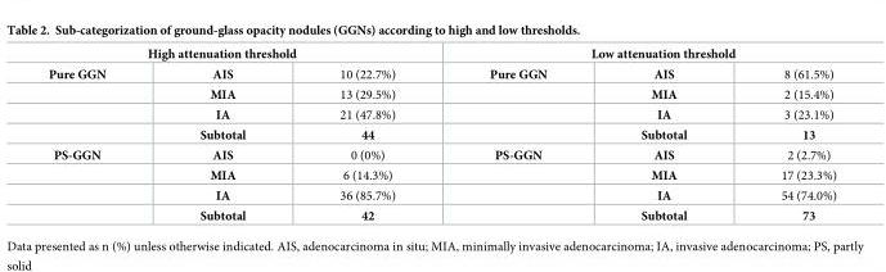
<table><thead><tr><td colspan="3">High attenuation threshold</td><td colspan="3">Low attenuation threshold</td></tr><tr><td>Pure GGN</td><td>AIS</td><td>10 (22.7%)</td><td>Pure GGN</td><td>AIS</td><td>8 (61.5%)</td></tr></thead><tbody><tr><td></td><td>MIA</td><td>13 (29.5%)</td><td></td><td>MIA</td><td>2 (15.4%)</td></tr><tr><td></td><td>IA</td><td>21 (47.8%)</td><td></td><td>IA</td><td>3 (23.1%)</td></tr><tr><td></td><td>Subtotal</td><td>44</td><td></td><td>Subtotal</td><td>13</td></tr><tr><td rowspan="4">PS-GGN</td><td>AIS</td><td>0 (0%)</td><td>PS-GGN</td><td>AIS</td><td>2 (2.7%)</td></tr><tr><td>MIA</td><td>6 (14.3%)</td><td></td><td>MIA</td><td>17 (23.3%)</td></tr><tr><td>IA</td><td>36 (85.7%)</td><td></td><td>IA</td><td>54 (74.0%)</td></tr><tr><td>Subtotal</td><td>42</td><td></td><td>Subtotal</td><td>73</td></tr></tbody></table>